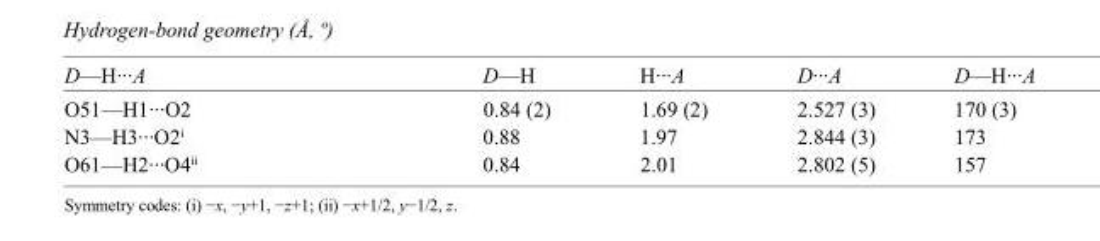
<table><tbody><tr><td>D—H···A</td><td>D—H</td><td>H···A</td><td>D···A</td><td>D—H···A</td></tr><tr><td>O51—H1···O2</td><td>0.84 (2)</td><td>1.69 (2)</td><td>2.527 (3)</td><td>170 (3)</td></tr><tr><td>N3—H3···O2<sup>i</sup></td><td>0.88</td><td>1.97</td><td>2.844 (3)</td><td>173</td></tr><tr><td>O61—H2···O4<sup>ii</sup></td><td>0.84</td><td>2.01</td><td>2.802 (5)</td><td>157</td></tr></tbody></table>